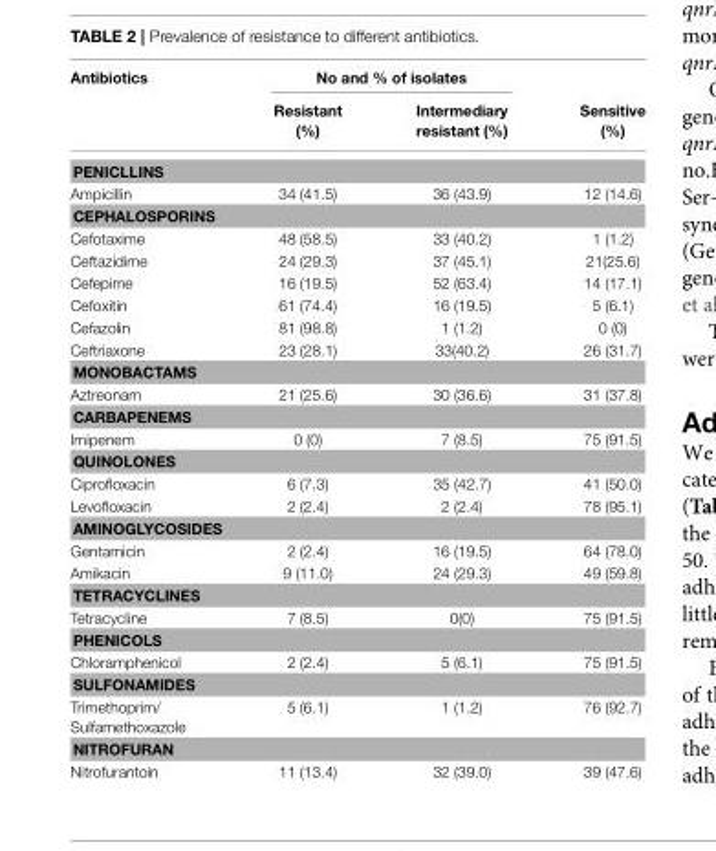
<table><thead><tr><td rowspan="2">Antibiotics</td><td colspan="2">No and % of isolates</td><td rowspan="2">Sensitive (%)</td></tr><tr><td>Resistant (%)</td><td>Intermediary resistant (%)</td></tr></thead><tbody><tr><td colspan="4">PENICLLINS</td></tr><tr><td>Ampicillin</td><td>34 (41.5)</td><td>36 (43.9)</td><td>12 (14.6)</td></tr><tr><td colspan="4">CEPHALOSPORINS</td></tr><tr><td>Cefotaxime</td><td>48 (58.5)</td><td>33 (40.2)</td><td>1 (1.2)</td></tr><tr><td>Ceftazidime</td><td>24 (29.3)</td><td>37 (45.1)</td><td>21(25.6)</td></tr><tr><td>Cefepime</td><td>16 (19.5)</td><td>52 (63.4)</td><td>14 (17.1)</td></tr><tr><td>Cefoxitin</td><td>61 (74.4)</td><td>16 (19.5)</td><td>5 (6.1)</td></tr><tr><td>Cefazolin</td><td>81 (98.8)</td><td>1 (1.2)</td><td>0 (0)</td></tr><tr><td>Ceftriaxone</td><td>23 (28.1)</td><td>33(40.2)</td><td>26 (31.7)</td></tr><tr><td colspan="4">MONOBACTAMS</td></tr><tr><td>Aztreonam</td><td>21 (25.6)</td><td>30 (36.6)</td><td>31 (37.8)</td></tr><tr><td colspan="4">CARBAPENEMS</td></tr><tr><td>Imipenem</td><td>0 (0)</td><td>7 (8.5)</td><td>75 (91.5)</td></tr><tr><td colspan="4">QUINOLONES</td></tr><tr><td>Ciprofloxacin</td><td>6 (7.3)</td><td>35 (42.7)</td><td>41 (50.0)</td></tr><tr><td>Levofloxacin</td><td>2 (2.4)</td><td>2 (2.4)</td><td>78 (95.1)</td></tr><tr><td colspan="4">AMINOGLYCOSIDES</td></tr><tr><td>Gentamicin</td><td>2 (2.4)</td><td>16 (19.5)</td><td>64 (78.0)</td></tr><tr><td>Amikacin</td><td>9 (11.0)</td><td>24 (29.3)</td><td>49 (59.8)</td></tr><tr><td colspan="4">TETRACYCLINES</td></tr><tr><td>Tetracycline</td><td>7 (8.5)</td><td>0(0)</td><td>75 (91.5)</td></tr><tr><td colspan="4">PHENICOLS</td></tr><tr><td>Chloramphenicol</td><td>2 (2.4)</td><td>5 (6.1)</td><td>75 (91.5)</td></tr><tr><td colspan="4">SULFONAMIDES</td></tr><tr><td>Trimethoprim/ Sulfamethoxazole</td><td>5 (6.1)</td><td>1 (1.2)</td><td>76 (92.7)</td></tr><tr><td colspan="4">NITROFURAN</td></tr><tr><td>Nitrofurantoin</td><td>11 (13.4)</td><td>32 (39.0)</td><td>39 (47.6)</td></tr></tbody></table>